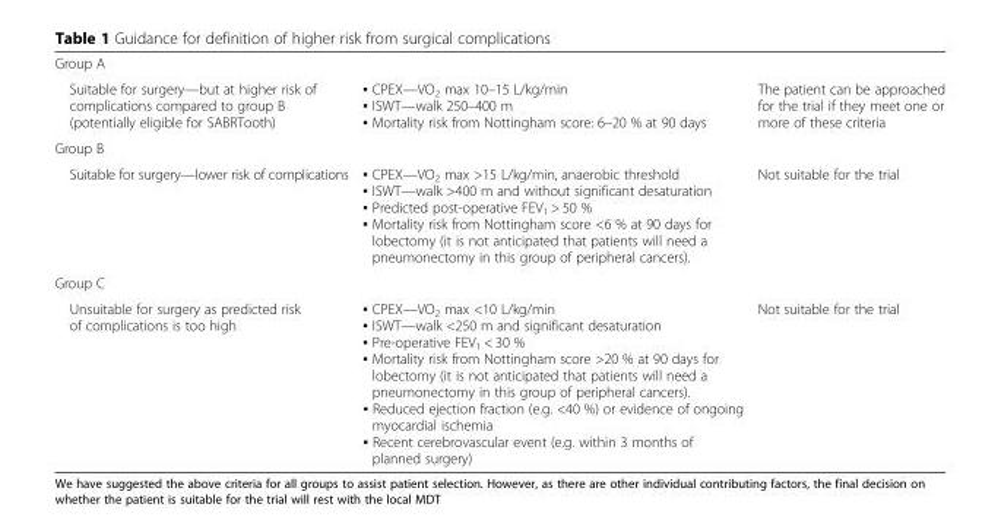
<table><tbody><tr><td colspan="3">Group A</td></tr><tr><td>Suitable for surgery—but at higher risk of complications compared to group B (potentially eligible for SABRTooth)</td><td>▪ CPEX—VO<sub>2</sub> max 10–15 L/kg/min ▪ ISWT—walk 250–400 m ▪ Mortality risk from Nottingham score: 6–20 % at 90 days</td><td>The patient can be approached for the trial if they meet one or more of these criteria</td></tr><tr><td colspan="3">Group B</td></tr><tr><td>Suitable for surgery—lower risk of complications</td><td>▪ CPEX—VO<sub>2</sub> max &gt;15 L/kg/min, anaerobic threshold ▪ ISWT—walk &gt;400 m and without significant desaturation ▪ Predicted post-operative FEV<sub>1</sub> &gt; 50 % ▪ Mortality risk from Nottingham score &lt;6 % at 90 days for lobectomy (it is not anticipated that patients will need a pneumonectomy in this group of peripheral cancers).</td><td>Not suitable for the trial</td></tr><tr><td colspan="3">Group C</td></tr><tr><td>Unsuitable for surgery as predicted risk of complications is too high</td><td>▪ CPEX—VO<sub>2</sub> max &lt;10 L/kg/min ▪ ISWT—walk &lt;250 m and significant desaturation ▪ Pre-operative FEV<sub>1</sub> &lt; 30 % ▪ Mortality risk from Nottingham score &gt;20 % at 90 days for lobectomy (it is not anticipated that patients will need a pneumonectomy in this group of peripheral cancers). ▪ Reduced ejection fraction (e.g. &lt;40 %) or evidence of ongoing myocardial ischemia ▪ Recent cerebrovascular event (e.g. within 3 months of planned surgery)</td><td>Not suitable for the trial</td></tr></tbody></table>